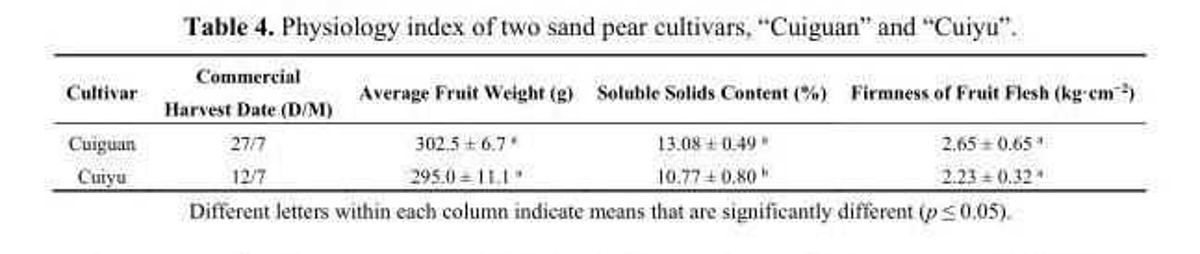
<table><thead><tr><td>Cultivar</td><td>Commercial Harvest Date (D/M)</td><td>Average Fruit Weight (g)</td><td>Soluble Solids Content (%)</td><td>Firmness of Fruit Flesh (kg·cm<sup>−2</sup>)</td></tr></thead><tbody><tr><td>Cuiguan</td><td>27/7</td><td>302.5 ± 6.7 <sup>a</sup></td><td>13.08 ± 0.49 <sup>a</sup></td><td>2.65 ± 0.65 <sup>a</sup></td></tr><tr><td>Cuiyu</td><td>12/7</td><td>295.0 ± 11.1 <sup>a</sup></td><td>10.77 ± 0.80 <sup>b</sup></td><td>2.23 ± 0.32 <sup>a</sup></td></tr></tbody></table>